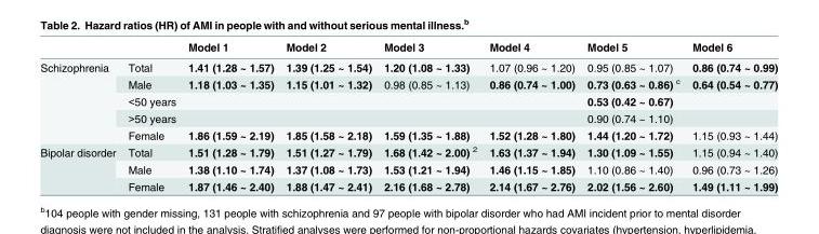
<table><thead><tr><td></td><td></td><td>Model 1</td><td>Model 2</td><td>Model 3</td><td>Model 4</td><td>Model 5</td><td>Model 6</td></tr></thead><tbody><tr><td rowspan="5">Schizophrenia</td><td>Total</td><td>1.41 (1.28 ~ 1.57)</td><td>1.39 (1.25 ~ 1.54)</td><td>1.20 (1.08 ~ 1.33)</td><td>1.07 (0.96 ~ 1.20)</td><td>0.95 (0.85 ~ 1.07)</td><td>0.86 (0.74 ~ 0.99)</td></tr><tr><td>Male</td><td>1.18 (1.03 ~ 1.35)</td><td>1.15 (1.01 ~ 1.32)</td><td>0.98 (0.85 ~ 1.13)</td><td>0.86 (0.74 ~ 1.00)</td><td>0.73 (0.63 ~ 0.86) <sup>c</sup></td><td>0.64 (0.54 ~ 0.77)</td></tr><tr><td>&lt;50 years</td><td></td><td></td><td></td><td></td><td>0.53 (0.42 ~ 0.67)</td><td></td></tr><tr><td>&gt;50 years</td><td></td><td></td><td></td><td></td><td>0.90 (0.74 ~ 1.10)</td><td></td></tr><tr><td>Female</td><td>1.86 (1.59 ~ 2.19)</td><td>1.85 (1.58 ~ 2.18)</td><td>1.59 (1.35 ~ 1.88)</td><td>1.52 (1.28 ~ 1.80)</td><td>1.44 (1.20 ~ 1.72)</td><td>1.15 (0.93 ~ 1.44)</td></tr><tr><td rowspan="3">Bipolar disorder</td><td>Total</td><td>1.51 (1.28 ~ 1.79)</td><td>1.51 (1.27 ~ 1.79)</td><td>1.68 (1.42 ~ 2.00) <sup>2</sup></td><td>1.63 (1.37 ~ 1.94)</td><td>1.30 (1.09 ~ 1.55)</td><td>1.15 (0.94 ~ 1.40)</td></tr><tr><td>Male</td><td>1.38 (1.10 ~ 1.74)</td><td>1.37 (1.08 ~ 1.73)</td><td>1.53 (1.21 ~ 1.94)</td><td>1.46 (1.15 ~ 1.85)</td><td>1.10 (0.86 ~ 1.40)</td><td>0.96 (0.73 ~ 1.26)</td></tr><tr><td>Female</td><td>1.87 (1.46 ~ 2.40)</td><td>1.88 (1.47 ~ 2.41)</td><td>2.16 (1.68 ~ 2.78)</td><td>2.14 (1.67 ~ 2.76)</td><td>2.02 (1.56 ~ 2.60)</td><td>1.49 (1.11 ~ 1.99)</td></tr></tbody></table>